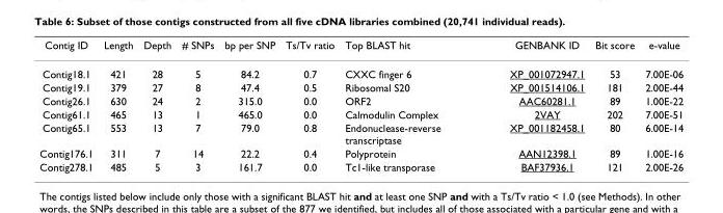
<table><thead><tr><td>Contig ID</td><td>Length</td><td>Depth</td><td># SNPs</td><td>bp per SNP</td><td>Ts/Tv ratio</td><td>Top BLAST hit</td><td>GENBANK ID</td><td>Bit score</td><td>e-value</td></tr></thead><tbody><tr><td>Contig18.1</td><td>421</td><td>28</td><td>5</td><td>84.2</td><td>0.7</td><td>CXXC finger 6</td><td>XP_001072947.1</td><td>53</td><td>7.00E-06</td></tr><tr><td>Contig19.1</td><td>379</td><td>27</td><td>8</td><td>47.4</td><td>0.5</td><td>Ribosomal S20</td><td>XP_001514106.1</td><td>181</td><td>2.00E-44</td></tr><tr><td>Contig26.1</td><td>630</td><td>24</td><td>2</td><td>315.0</td><td>0.0</td><td>ORF2</td><td>AAC60281.1</td><td>89</td><td>1.00E-22</td></tr><tr><td>Contig61.1</td><td>465</td><td>13</td><td>1</td><td>465.0</td><td>0.0</td><td>Calmodulin Complex</td><td>2VAY</td><td>202</td><td>7.00E-51</td></tr><tr><td>Contig65.1</td><td>553</td><td>13</td><td>7</td><td>79.0</td><td>0.8</td><td>Endonuclease-reverse transcriptase</td><td>XP_001182458.1</td><td>80</td><td>6.00E-14</td></tr><tr><td>Contig176.1</td><td>311</td><td>7</td><td>14</td><td>22.2</td><td>0.4</td><td>Polyprotein</td><td>AAN12398.1</td><td>89</td><td>1.00E-16</td></tr><tr><td>Contig278.1</td><td>485</td><td>5</td><td>3</td><td>161.7</td><td>0.0</td><td>Tc1-like transporase</td><td>BAF37936.1</td><td>121</td><td>2.00E-26</td></tr></tbody></table>